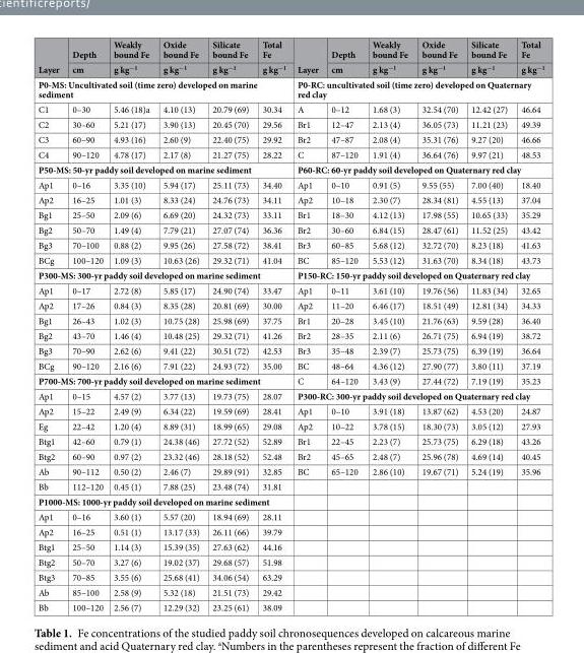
<table><thead><tr><td rowspan="2">Layer</td><td rowspan="2">Depth cm</td><td rowspan="2">Weakly bound Fe g kg<sup>−1</sup></td><td rowspan="2">Oxide bound Fe g kg<sup>−1</sup></td><td rowspan="2">Silicate bound Fe g kg<sup>−1</sup></td><td rowspan="2">Total Fe g kg<sup>−1</sup></td><td rowspan="2">Layer</td><td rowspan="2">Depth cm</td><td rowspan="2">Weakly bound Fe g kg<sup>−1</sup></td><td rowspan="2">Oxide bound Fe g kg<sup>−1</sup></td><td rowspan="2">Silicate bound Fe g kg<sup>−1</sup></td><td rowspan="2">Total Fe g kg<sup>−1</sup></td></tr><tr></tr></thead><tbody><tr><td colspan="6">P0-MS: Uncultivated soil (time zero) developed on marine sediment</td><td colspan="6">P0-RC: uncultivated soil (time zero) developed on Quaternary red clay</td></tr><tr><td>C1</td><td>0–30</td><td>5.46 (18)a</td><td>4.10 (13)</td><td>20.79 (69)</td><td>30.34</td><td>A</td><td>0–12</td><td>1.68 (3)</td><td>32.54 (70)</td><td>12.42 (27)</td><td>46.64</td></tr><tr><td>C2</td><td>30–60</td><td>5.21 (17)</td><td>3.90 (13)</td><td>20.45 (70)</td><td>29.56</td><td>Br1</td><td>12–47</td><td>2.13 (4)</td><td>36.05 (73)</td><td>11.21 (23)</td><td>49.39</td></tr><tr><td>C3</td><td>60–90</td><td>4.93 (16)</td><td>2.60 (9)</td><td>22.40 (75)</td><td>29.92</td><td>Br2</td><td>47–87</td><td>2.08 (4)</td><td>35.31 (76)</td><td>9.27 (20)</td><td>46.66</td></tr><tr><td>C4</td><td>90–120</td><td>4.78 (17)</td><td>2.17 (8)</td><td>21.27 (75)</td><td>28.22</td><td>C</td><td>87–120</td><td>1.91 (4)</td><td>36.64 (76)</td><td>9.97 (21)</td><td>48.53</td></tr><tr><td colspan="6">P50-MS: 50-yr paddy soil developed on marine sediment</td><td colspan="6">P60-RC: 60-yr paddy soil developed on Quaternary red clay</td></tr><tr><td>Ap1</td><td>0–16</td><td>3.35 (10)</td><td>5.94 (17)</td><td>25.11 (73)</td><td>34.40</td><td>Ap1</td><td>0–10</td><td>0.91 (5)</td><td>9.55 (55)</td><td>7.00 (40)</td><td>18.40</td></tr><tr><td>Ap2</td><td>16–25</td><td>1.01 (3)</td><td>8.33 (24)</td><td>24.76 (73)</td><td>34.11</td><td>Ap2</td><td>10–18</td><td>2.30 (7)</td><td>28.34 (81)</td><td>4.55 (13)</td><td>37.04</td></tr><tr><td>Bg1</td><td>25–50</td><td>2.09 (6)</td><td>6.69 (20)</td><td>24.32 (73)</td><td>33.11</td><td>Br1</td><td>18–30</td><td>4.12 (13)</td><td>17.98 (55)</td><td>10.65 (33)</td><td>35.29</td></tr><tr><td>Bg2</td><td>50–70</td><td>1.49 (4)</td><td>7.79 (21)</td><td>27.07 (74)</td><td>36.36</td><td>Br2</td><td>30–60</td><td>6.84 (15)</td><td>28.47 (61)</td><td>11.52 (25)</td><td>43.42</td></tr><tr><td>Bg3</td><td>70–100</td><td>0.88 (2)</td><td>9.95 (26)</td><td>27.58 (72)</td><td>38.41</td><td>Br3</td><td>60–85</td><td>5.68 (12)</td><td>32.72 (70)</td><td>8.23 (18)</td><td>41.63</td></tr><tr><td>BCg</td><td>100–120</td><td>1.09 (3)</td><td>10.63 (26)</td><td>29.32 (71)</td><td>41.04</td><td>BC</td><td>85–120</td><td>5.53 (12)</td><td>31.63 (70)</td><td>8.34 (18)</td><td>43.73</td></tr><tr><td colspan="6">P300-MS: 300-yr paddy soil developed on marine sediment</td><td colspan="6">P150-RC: 150-yr paddy soil developed on Quaternary red clay</td></tr><tr><td>Ap1</td><td>0–17</td><td>2.72 (8)</td><td>5.85 (17)</td><td>24.90 (74)</td><td>33.47</td><td>Ap1</td><td>0–11</td><td>3.61 (10)</td><td>19.76 (56)</td><td>11.83 (34)</td><td>32.65</td></tr><tr><td>Ap2</td><td>17–26</td><td>0.84 (3)</td><td>8.35 (28)</td><td>20.81 (69)</td><td>30.00</td><td>Ap2</td><td>11–20</td><td>6.46 (17)</td><td>18.51 (49)</td><td>12.81 (34)</td><td>34.33</td></tr><tr><td>Bg1</td><td>26–43</td><td>1.02 (3)</td><td>10.75 (28)</td><td>25.98 (69)</td><td>37.75</td><td>Br1</td><td>20–28</td><td>3.45 (10)</td><td>21.76 (63)</td><td>9.59 (28)</td><td>36.40</td></tr><tr><td>Bg2</td><td>43–70</td><td>1.46 (4)</td><td>10.48 (25)</td><td>29.32 (71)</td><td>41.26</td><td>Br2</td><td>28–35</td><td>2.11 (6)</td><td>26.71 (75)</td><td>6.94 (19)</td><td>38.72</td></tr><tr><td>Bg3</td><td>70–90</td><td>2.62 (6)</td><td>9.41 (22)</td><td>30.51 (72)</td><td>42.53</td><td>Br3</td><td>35–48</td><td>2.39 (7)</td><td>25.73 (75)</td><td>6.39 (19)</td><td>36.64</td></tr><tr><td>BCg</td><td>90–120</td><td>2.16 (6)</td><td>7.91 (22)</td><td>24.93 (72)</td><td>35.00</td><td>BC</td><td>48–64</td><td>4.36 (12)</td><td>27.90 (77)</td><td>3.80 (11)</td><td>37.19</td></tr><tr><td colspan="6">P700-MS: 700-yr paddy soil developed on marine sediment</td><td>C</td><td>64–120</td><td>3.43 (9)</td><td>27.44 (72)</td><td>7.19 (19)</td><td>35.23</td></tr><tr><td>Ap1</td><td>0–15</td><td>4.57 (2)</td><td>3.77 (13)</td><td>19.73 (75)</td><td>28.07</td><td colspan="6">P300-RC: 300-yr paddy soil developed on Quaternary red clay</td></tr><tr><td>Ap2</td><td>15–22</td><td>2.49 (9)</td><td>6.34 (22)</td><td>19.59 (69)</td><td>28.41</td><td>Ap1</td><td>0–10</td><td>3.91 (18)</td><td>13.87 (62)</td><td>4.53 (20)</td><td>24.87</td></tr><tr><td>Eg</td><td>22–42</td><td>1.20 (4)</td><td>8.89 (31)</td><td>18.99 (65)</td><td>29.08</td><td>Ap2</td><td>10–22</td><td>3.78 (15)</td><td>18.30 (73)</td><td>3.05 (12)</td><td>27.93</td></tr><tr><td>Btg1</td><td>42–60</td><td>0.79 (1)</td><td>24.38 (46)</td><td>27.72 (52)</td><td>52.89</td><td>Br1</td><td>22–45</td><td>2.23 (7)</td><td>25.73 (75)</td><td>6.29 (18)</td><td>43.26</td></tr><tr><td>Btg2</td><td>60–90</td><td>0.97 (2)</td><td>23.32 (46)</td><td>28.18 (52)</td><td>52.48</td><td>Br2</td><td>45–65</td><td>2.48 (7)</td><td>25.96 (78)</td><td>4.69 (14)</td><td>40.45</td></tr><tr><td>Ab</td><td>90–112</td><td>0.50 (2)</td><td>2.46 (7)</td><td>29.89 (91)</td><td>32.85</td><td>BC</td><td>65–120</td><td>2.86 (10)</td><td>19.67 (71)</td><td>5.24 (19)</td><td>35.96</td></tr><tr><td>Bb</td><td>112–120</td><td>0.45 (1)</td><td>7.88 (25)</td><td>23.48 (74)</td><td>31.81</td><td></td><td></td><td></td><td></td><td></td><td></td></tr><tr><td colspan="12">P1000-MS: 1000-yr paddy soil developed on marine sediment</td></tr><tr><td>Ap1</td><td>0–16</td><td>3.60 (1)</td><td>5.57 (20)</td><td>18.94 (69)</td><td>28.11</td><td></td><td></td><td></td><td></td><td></td><td></td></tr><tr><td>Ap2</td><td>16–25</td><td>0.51 (1)</td><td>13.17 (33)</td><td>26.11 (66)</td><td>39.79</td><td></td><td></td><td></td><td></td><td></td><td></td></tr><tr><td>Btg1</td><td>25–50</td><td>1.14 (3)</td><td>15.39 (35)</td><td>27.63 (62)</td><td>44.16</td><td></td><td></td><td></td><td></td><td></td><td></td></tr><tr><td>Btg2</td><td>50–70</td><td>3.27 (6)</td><td>19.02 (37)</td><td>29.68 (57)</td><td>51.98</td><td></td><td></td><td></td><td></td><td></td><td></td></tr><tr><td>Btg3</td><td>70–85</td><td>3.55 (6)</td><td>25.68 (41)</td><td>34.06 (54)</td><td>63.29</td><td></td><td></td><td></td><td></td><td></td><td></td></tr><tr><td>Ab</td><td>85–100</td><td>2.58 (9)</td><td>5.32 (18)</td><td>21.51 (73)</td><td>29.42</td><td></td><td></td><td></td><td></td><td></td><td></td></tr><tr><td>Bb</td><td>100–120</td><td>2.56 (7)</td><td>12.29 (32)</td><td>23.25 (61)</td><td>38.09</td><td></td><td></td><td></td><td></td><td></td><td></td></tr></tbody></table>